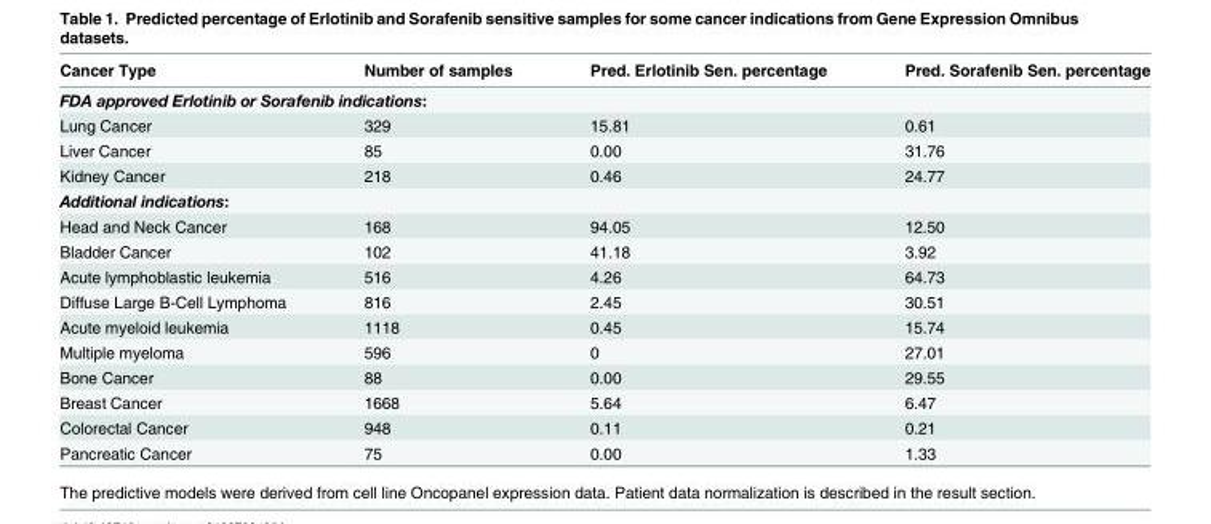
<table><thead><tr><td>Cancer Type</td><td>Number of samples</td><td>Pred. Erlotinib Sen. percentage</td><td>Pred. Sorafenib Sen. percentage</td></tr></thead><tbody><tr><td colspan="4">FDA approved Erlotinib or Sorafenib indications:</td></tr><tr><td>Lung Cancer</td><td>329</td><td>15.81</td><td>0.61</td></tr><tr><td>Liver Cancer</td><td>85</td><td>0.00</td><td>31.76</td></tr><tr><td>Kidney Cancer</td><td>218</td><td>0.46</td><td>24.77</td></tr><tr><td colspan="4">Additional indications:</td></tr><tr><td>Head and Neck Cancer</td><td>168</td><td>94.05</td><td>12.50</td></tr><tr><td>Bladder Cancer</td><td>102</td><td>41.18</td><td>3.92</td></tr><tr><td>Acute lymphoblastic leukemia</td><td>516</td><td>4.26</td><td>64.73</td></tr><tr><td>Diffuse Large B-Cell Lymphoma</td><td>816</td><td>2.45</td><td>30.51</td></tr><tr><td>Acute myeloid leukemia</td><td>1118</td><td>0.45</td><td>15.74</td></tr><tr><td>Multiple myeloma</td><td>596</td><td>0</td><td>27.01</td></tr><tr><td>Bone Cancer</td><td>88</td><td>0.00</td><td>29.55</td></tr><tr><td>Breast Cancer</td><td>1668</td><td>5.64</td><td>6.47</td></tr><tr><td>Colorectal Cancer</td><td>948</td><td>0.11</td><td>0.21</td></tr><tr><td>Pancreatic Cancer</td><td>75</td><td>0.00</td><td>1.33</td></tr></tbody></table>